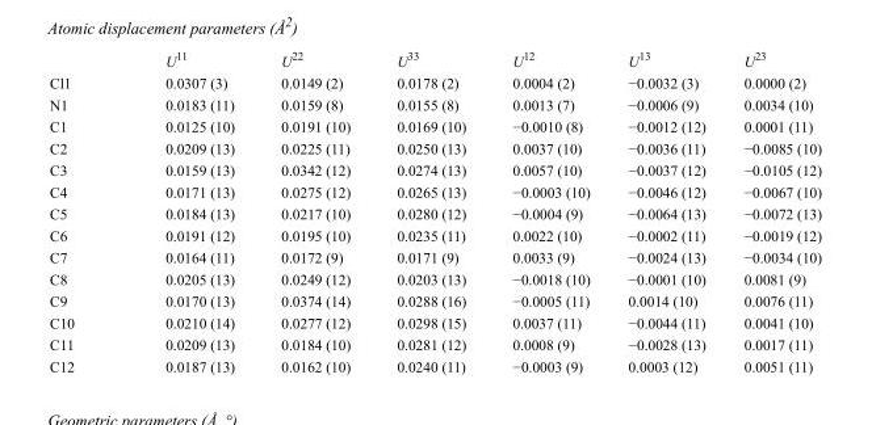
<table><thead><tr><td></td><td>U<sup>11</sup></td><td>U<sup>22</sup></td><td>U<sup>33</sup></td><td>U<sup>12</sup></td><td>U<sup>13</sup></td><td>U<sup>23</sup></td></tr></thead><tbody><tr><td>Cl1</td><td>0.0307 (3)</td><td>0.0149 (2)</td><td>0.0178 (2)</td><td>0.0004 (2)</td><td>−0.0032 (3)</td><td>0.0000 (2)</td></tr><tr><td>N1</td><td>0.0183 (11)</td><td>0.0159 (8)</td><td>0.0155 (8)</td><td>0.0013 (7)</td><td>−0.0006 (9)</td><td>0.0034 (10)</td></tr><tr><td>C1</td><td>0.0125 (10)</td><td>0.0191 (10)</td><td>0.0169 (10)</td><td>−0.0010 (8)</td><td>−0.0012 (12)</td><td>0.0001 (11)</td></tr><tr><td>C2</td><td>0.0209 (13)</td><td>0.0225 (11)</td><td>0.0250 (13)</td><td>0.0037 (10)</td><td>−0.0036 (11)</td><td>−0.0085 (10)</td></tr><tr><td>C3</td><td>0.0159 (13)</td><td>0.0342 (12)</td><td>0.0274 (13)</td><td>0.0057 (10)</td><td>−0.0037 (12)</td><td>−0.0105 (12)</td></tr><tr><td>C4</td><td>0.0171 (13)</td><td>0.0275 (12)</td><td>0.0265 (13)</td><td>−0.0003 (10)</td><td>−0.0046 (12)</td><td>−0.0067 (10)</td></tr><tr><td>C5</td><td>0.0184 (13)</td><td>0.0217 (10)</td><td>0.0280 (12)</td><td>−0.0004 (9)</td><td>−0.0064 (13)</td><td>−0.0072 (13)</td></tr><tr><td>C6</td><td>0.0191 (12)</td><td>0.0195 (10)</td><td>0.0235 (11)</td><td>0.0022 (10)</td><td>−0.0002 (11)</td><td>−0.0019 (12)</td></tr><tr><td>C7</td><td>0.0164 (11)</td><td>0.0172 (9)</td><td>0.0171 (9)</td><td>0.0033 (9)</td><td>−0.0024 (13)</td><td>−0.0034 (10)</td></tr><tr><td>C8</td><td>0.0205 (13)</td><td>0.0249 (12)</td><td>0.0203 (13)</td><td>−0.0018 (10)</td><td>−0.0001 (10)</td><td>0.0081 (9)</td></tr><tr><td>C9</td><td>0.0170 (13)</td><td>0.0374 (14)</td><td>0.0288 (16)</td><td>−0.0005 (11)</td><td>0.0014 (10)</td><td>0.0076 (11)</td></tr><tr><td>C10</td><td>0.0210 (14)</td><td>0.0277 (12)</td><td>0.0298 (15)</td><td>0.0037 (11)</td><td>−0.0044 (11)</td><td>0.0041 (10)</td></tr><tr><td>C11</td><td>0.0209 (13)</td><td>0.0184 (10)</td><td>0.0281 (12)</td><td>0.0008 (9)</td><td>−0.0028 (13)</td><td>0.0017 (11)</td></tr><tr><td>C12</td><td>0.0187 (13)</td><td>0.0162 (10)</td><td>0.0240 (11)</td><td>−0.0003 (9)</td><td>0.0003 (12)</td><td>0.0051 (11)</td></tr></tbody></table>